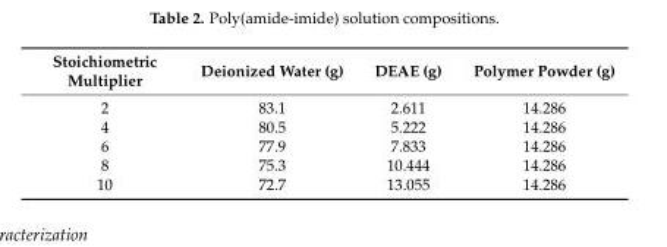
<table><thead><tr><td>Stoichiometric Multiplier</td><td>Deionized Water (g)</td><td>DEAE (g)</td><td>Polymer Powder (g)</td></tr></thead><tbody><tr><td>2</td><td>83.1</td><td>2.611</td><td>14.286</td></tr><tr><td>4</td><td>80.5</td><td>5.222</td><td>14.286</td></tr><tr><td>6</td><td>77.9</td><td>7.833</td><td>14.286</td></tr><tr><td>8</td><td>75.3</td><td>10.444</td><td>14.286</td></tr><tr><td>10</td><td>72.7</td><td>13.055</td><td>14.286</td></tr></tbody></table>